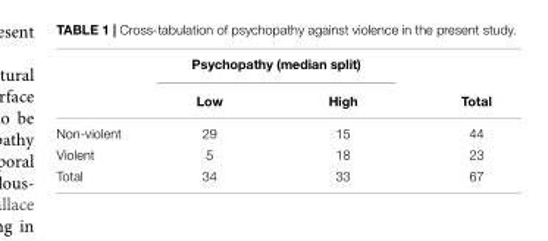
<table><thead><tr><td rowspan="2"></td><td colspan="2">Psychopathy (median split)</td><td rowspan="2">Total</td></tr><tr><td>Low</td><td>High</td></tr></thead><tbody><tr><td>Non-violent</td><td>29</td><td>15</td><td>44</td></tr><tr><td>Violent</td><td>5</td><td>18</td><td>23</td></tr><tr><td>Total</td><td>34</td><td>33</td><td>67</td></tr></tbody></table>